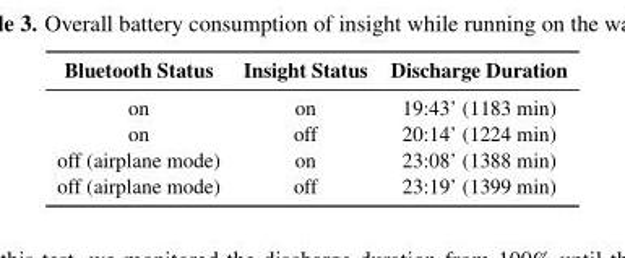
<table><thead><tr><td>Bluetooth Status</td><td>Insight Status</td><td>Discharge Duration</td></tr></thead><tbody><tr><td>on</td><td>on</td><td>19:43’ (1183 min)</td></tr><tr><td>on</td><td>off</td><td>20:14’ (1224 min)</td></tr><tr><td>off (airplane mode)</td><td>on</td><td>23:08’ (1388 min)</td></tr><tr><td>off (airplane mode)</td><td>off</td><td>23:19’ (1399 min)</td></tr></tbody></table>